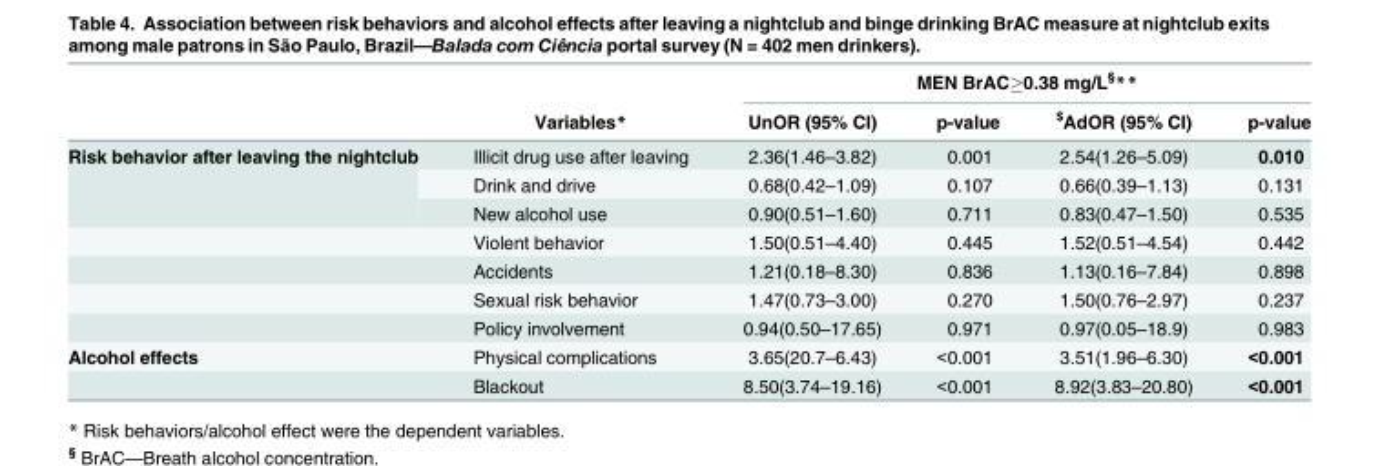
<table><thead><tr><td rowspan="2"></td><td rowspan="2">Variables*</td><td colspan="4">MEN BrAC≥0.38 mg/L<sup>§</sup>**</td></tr><tr><td>UnOR (95% CI)</td><td>p-value</td><td><sup>$</sup>AdOR (95% CI)</td><td>p-value</td></tr></thead><tbody><tr><td rowspan="7">Risk behavior after leaving the nightclub</td><td>Illicit drug use after leaving</td><td>2.36(1.46–3.82)</td><td>0.001</td><td>2.54(1.26–5.09)</td><td>0.010</td></tr><tr><td>Drink and drive</td><td>0.68(0.42–1.09)</td><td>0.107</td><td>0.66(0.39–1.13)</td><td>0.131</td></tr><tr><td>New alcohol use</td><td>0.90(0.51–1.60)</td><td>0.711</td><td>0.83(0.47–1.50)</td><td>0.535</td></tr><tr><td>Violent behavior</td><td>1.50(0.51–4.40)</td><td>0.445</td><td>1.52(0.51–4.54)</td><td>0.442</td></tr><tr><td>Accidents</td><td>1.21(0.18–8.30)</td><td>0.836</td><td>1.13(0.16–7.84)</td><td>0.898</td></tr><tr><td>Sexual risk behavior</td><td>1.47(0.73–3.00)</td><td>0.270</td><td>1.50(0.76–2.97)</td><td>0.237</td></tr><tr><td>Policy involvement</td><td>0.94(0.50–17.65)</td><td>0.971</td><td>0.97(0.05–18.9)</td><td>0.983</td></tr><tr><td rowspan="2">Alcohol effects</td><td>Physical complications</td><td>3.65(20.7–6.43)</td><td>&lt;0.001</td><td>3.51(1.96–6.30)</td><td>&lt;0.001</td></tr><tr><td>Blackout</td><td>8.50(3.74–19.16)</td><td>&lt;0.001</td><td>8.92(3.83–20.80)</td><td>&lt;0.001</td></tr></tbody></table>